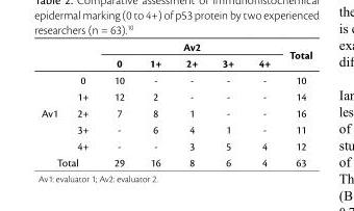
<table><thead><tr><td rowspan="2"></td><td rowspan="2"></td><td colspan="5">Av2</td><td rowspan="2">Total</td></tr><tr><td>0</td><td>1+</td><td>2+</td><td>3+</td><td>4+</td></tr></thead><tbody><tr><td rowspan="5">Av1</td><td>0</td><td>10</td><td>-</td><td>-</td><td>-</td><td>-</td><td>10</td></tr><tr><td>1+</td><td>12</td><td>2</td><td>-</td><td>-</td><td>-</td><td>14</td></tr><tr><td>2+</td><td>7</td><td>8</td><td>1</td><td>-</td><td>-</td><td>16</td></tr><tr><td>3+</td><td>-</td><td>6</td><td>4</td><td>1</td><td>-</td><td>11</td></tr><tr><td>4+</td><td>-</td><td>-</td><td>3</td><td>5</td><td>4</td><td>12</td></tr><tr><td colspan="2">Total</td><td>29</td><td>16</td><td>8</td><td>6</td><td>4</td><td>63</td></tr></tbody></table>